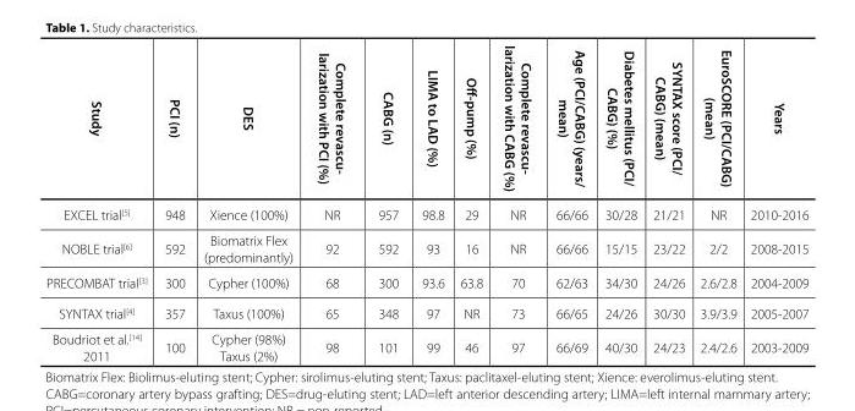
<table><thead><tr><td>Study</td><td>PCI (n)</td><td>DES</td><td>Complete revascu- larization with PCI (%)</td><td>CABG (n)</td><td>LIMA to LAD (%)</td><td>Off-pump (%)</td><td>Complete revascu- larization with CABG (%)</td><td>Age (PCI/CABG) (years/ mean)</td><td>Diabetes mellitus (PCI/ CABG) (%)</td><td>SYNTAX score (PCI/ CABG) (mean)</td><td>EuroSCORE (PCI/CABG) (mean)</td><td>Years</td></tr></thead><tbody><tr><td>EXCEL trial<sup>[5]</sup></td><td>948</td><td>Xience (100%)</td><td>NR</td><td>957</td><td>98.8</td><td>29</td><td>NR</td><td>66/66</td><td>30/28</td><td>21/21</td><td>NR</td><td>2010-2016</td></tr><tr><td>NOBLE trial<sup>[6]</sup></td><td>592</td><td>Biomatrix Flex (predominantly)</td><td>92</td><td>592</td><td>93</td><td>16</td><td>NR</td><td>66/66</td><td>15/15</td><td>23/22</td><td>2/2</td><td>2008-2015</td></tr><tr><td>PRECOMBAT trial<sup>[3]</sup></td><td>300</td><td>Cypher (100%)</td><td>68</td><td>300</td><td>93.6</td><td>63.8</td><td>70</td><td>62/63</td><td>34/30</td><td>24/26</td><td>2.6/2.8</td><td>2004-2009</td></tr><tr><td>SYNTAX trial<sup>[4]</sup></td><td>357</td><td>Taxus (100%)</td><td>65</td><td>348</td><td>97</td><td>NR</td><td>73</td><td>66/65</td><td>24/26</td><td>30/30</td><td>3.9/3.9</td><td>2005-2007</td></tr><tr><td>Boudriot et al.<sup>[14]</sup> 2011</td><td>100</td><td>Cypher (98%) Taxus (2%)</td><td>98</td><td>101</td><td>99</td><td>46</td><td>97</td><td>66/69</td><td>40/30</td><td>24/23</td><td>2.4/2.6</td><td>2003-2009</td></tr></tbody></table>